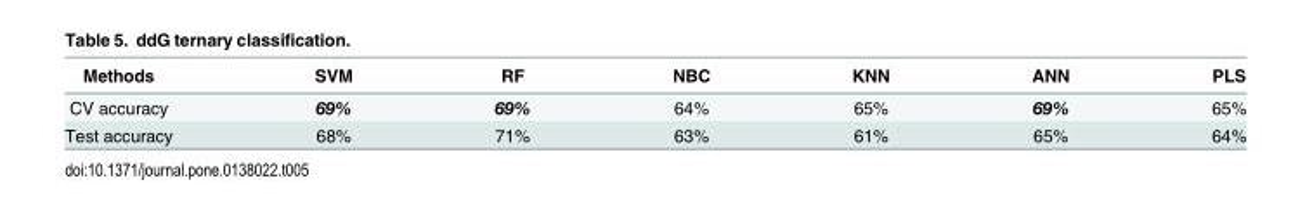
<table><thead><tr><td>Methods</td><td>SVM</td><td>RF</td><td>NBC</td><td>KNN</td><td>ANN</td><td>PLS</td></tr></thead><tbody><tr><td>CV accuracy</td><td>69%</td><td>69%</td><td>64%</td><td>65%</td><td>69%</td><td>65%</td></tr><tr><td>Test accuracy</td><td>68%</td><td>71%</td><td>63%</td><td>61%</td><td>65%</td><td>64%</td></tr></tbody></table>